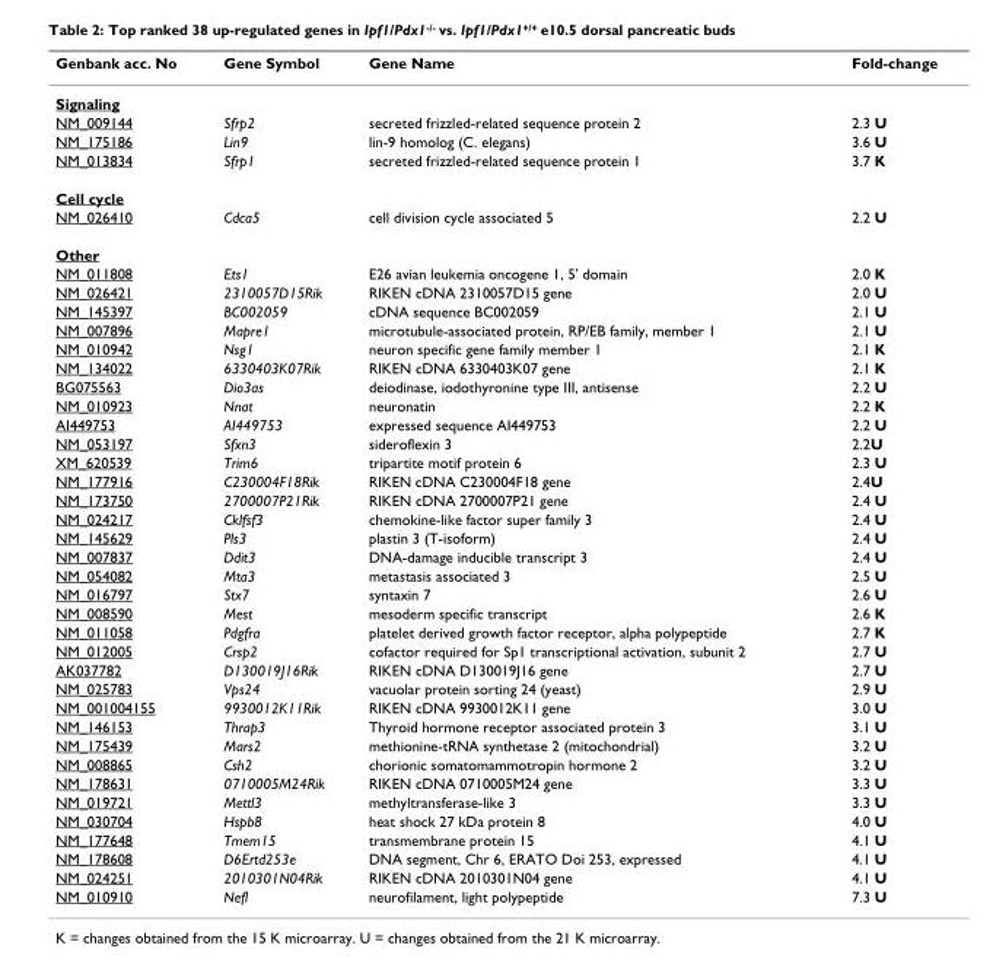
<table><thead><tr><td>Genbank acc. No</td><td>Gene Symbol</td><td>Gene Name</td><td>Fold-change</td></tr></thead><tbody><tr><td colspan="4">Signaling</td></tr><tr><td>NM_009144</td><td>Sfrp2</td><td>secreted frizzled-related sequence protein 2</td><td>2.3 U</td></tr><tr><td>NM_175186</td><td>Lin9</td><td>lin-9 homolog (C. elegans)</td><td>3.6 U</td></tr><tr><td>NM_013834</td><td>Sfrp1</td><td>secreted frizzled-related sequence protein 1</td><td>3.7 K</td></tr><tr><td colspan="4">Cell cycle</td></tr><tr><td>NM_026410</td><td>Cdca5</td><td>cell division cycle associated 5</td><td>2.2 U</td></tr><tr><td colspan="4">Other</td></tr><tr><td>NM_011808</td><td>Ets1</td><td>E26 avian leukemia oncogene 1, 5&#x27; domain</td><td>2.0 K</td></tr><tr><td>NM_026421</td><td>2310057D15Rik</td><td>RIKEN cDNA 2310057D15 gene</td><td>2.0 U</td></tr><tr><td>NM_145397</td><td>BC002059</td><td>cDNA sequence BC002059</td><td>2.1 U</td></tr><tr><td>NM_007896</td><td>Mapre1</td><td>microtubule-associated protein, RP/EB family, member 1</td><td>2.1 U</td></tr><tr><td>NM_010942</td><td>Nsg1</td><td>neuron specific gene family member 1</td><td>2.1 K</td></tr><tr><td>NM_134022</td><td>6330403K07Rik</td><td>RIKEN cDNA 6330403K07 gene</td><td>2.1 K</td></tr><tr><td>BG075563</td><td>Dio3as</td><td>deiodinase, iodothyronine type III, antisense</td><td>2.2 U</td></tr><tr><td>NM_010923</td><td>Nnat</td><td>neuronatin</td><td>2.2 K</td></tr><tr><td>AI449753</td><td>AI449753</td><td>expressed sequence AI449753</td><td>2.2 U</td></tr><tr><td>NM_053197</td><td>Sfxn3</td><td>sideroflexin 3</td><td>2.2U</td></tr><tr><td>XM_620539</td><td>Trim6</td><td>tripartite motif protein 6</td><td>2.3 U</td></tr><tr><td>NM_177916</td><td>C230004F18Rik</td><td>RIKEN cDNA C230004F18 gene</td><td>2.4U</td></tr><tr><td>NM_173750</td><td>2700007P21Rik</td><td>RIKEN cDNA 2700007P21 gene</td><td>2.4 U</td></tr><tr><td>NM_024217</td><td>Cklfsf3</td><td>chemokine-like factor super family 3</td><td>2.4 U</td></tr><tr><td>NM_145629</td><td>Pls3</td><td>plastin 3 (T-isoform)</td><td>2.4 U</td></tr><tr><td>NM_007837</td><td>Ddit3</td><td>DNA-damage inducible transcript 3</td><td>2.4 U</td></tr><tr><td>NM_054082</td><td>Mta3</td><td>metastasis associated 3</td><td>2.5 U</td></tr><tr><td>NM_016797</td><td>Stx7</td><td>syntaxin 7</td><td>2.6 U</td></tr><tr><td>NM_008590</td><td>Mest</td><td>mesoderm specific transcript</td><td>2.6 K</td></tr><tr><td>NM_011058</td><td>Pdgfra</td><td>platelet derived growth factor receptor, alpha polypeptide</td><td>2.7 K</td></tr><tr><td>NM_012005</td><td>Crsp2</td><td>cofactor required for Sp1 transcriptional activation, subunit 2</td><td>2.7 U</td></tr><tr><td>AK037782</td><td>D130019J16Rik</td><td>RIKEN cDNA D130019J16 gene</td><td>2.7 U</td></tr><tr><td>NM_025783</td><td>Vps24</td><td>vacuolar protein sorting 24 (yeast)</td><td>2.9 U</td></tr><tr><td>NM_001004155</td><td>9930012K11Rik</td><td>RIKEN cDNA 9930012K11 gene</td><td>3.0 U</td></tr><tr><td>NM_146153</td><td>Thrap3</td><td>Thyroid hormone receptor associated protein 3</td><td>3.1 U</td></tr><tr><td>NM_175439</td><td>Mars2</td><td>methionine-tRNA synthetase 2 (mitochondrial)</td><td>3.2 U</td></tr><tr><td>NM_008865</td><td>Csh2</td><td>chorionic somatomammotropin hormone 2</td><td>3.2 U</td></tr><tr><td>NM_178631</td><td>0710005M24Rik</td><td>RIKEN cDNA 0710005M24 gene</td><td>3.3 U</td></tr><tr><td>NM_019721</td><td>Mettl3</td><td>methyltransferase-like 3</td><td>3.3 U</td></tr><tr><td>NM_030704</td><td>Hspb8</td><td>heat shock 27 kDa protein 8</td><td>4.0 U</td></tr><tr><td>NM_177648</td><td>Tmem15</td><td>transmembrane protein 15</td><td>4.1 U</td></tr><tr><td>NM_178608</td><td>D6Ertd253e</td><td>DNA segment, Chr 6, ERATO Doi 253, expressed</td><td>4.1 U</td></tr><tr><td>NM_024251</td><td>2010301N04Rik</td><td>RIKEN cDNA 2010301N04 gene</td><td>4.1 U</td></tr><tr><td>NM_010910</td><td>Nefl</td><td>neurofilament, light polypeptide</td><td>7.3 U</td></tr></tbody></table>